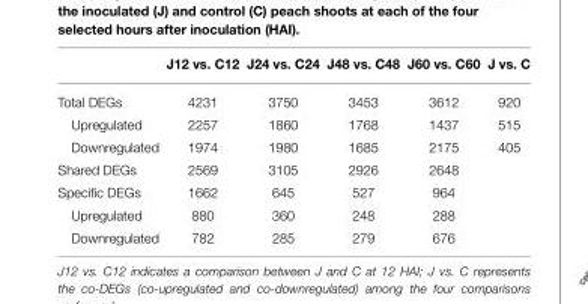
<table><thead><tr><td></td><td>J12 vs. C12</td><td>J24 vs. C24</td><td>J48 vs. C48</td><td>J60 vs. C60</td><td>J vs. C</td></tr></thead><tbody><tr><td>Total DEGs</td><td>4231</td><td>3750</td><td>3453</td><td>3612</td><td>920</td></tr><tr><td>Upregulated</td><td>2257</td><td>1860</td><td>1768</td><td>1437</td><td>515</td></tr><tr><td>Downregulated</td><td>1974</td><td>1980</td><td>1685</td><td>2175</td><td>405</td></tr><tr><td>Shared DEGs</td><td>2569</td><td>3105</td><td>2926</td><td>2648</td><td></td></tr><tr><td>Specific DEGs</td><td>1662</td><td>645</td><td>527</td><td>964</td><td></td></tr><tr><td>Upregulated</td><td>880</td><td>360</td><td>248</td><td>288</td><td></td></tr><tr><td>Downregulated</td><td>782</td><td>285</td><td>279</td><td>676</td><td></td></tr></tbody></table>